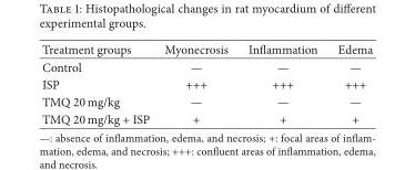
<table><thead><tr><td>Treatment groups</td><td>Myonecrosis</td><td>Inflammation</td><td>Edema</td></tr></thead><tbody><tr><td>Control</td><td>—</td><td>—</td><td>—</td></tr><tr><td>ISP</td><td>+++</td><td>+++</td><td>+++</td></tr><tr><td>TMQ 20 mg/kg</td><td>—</td><td>—</td><td>—</td></tr><tr><td>TMQ 20 mg/kg + ISP</td><td>+</td><td>+</td><td>+</td></tr></tbody></table>